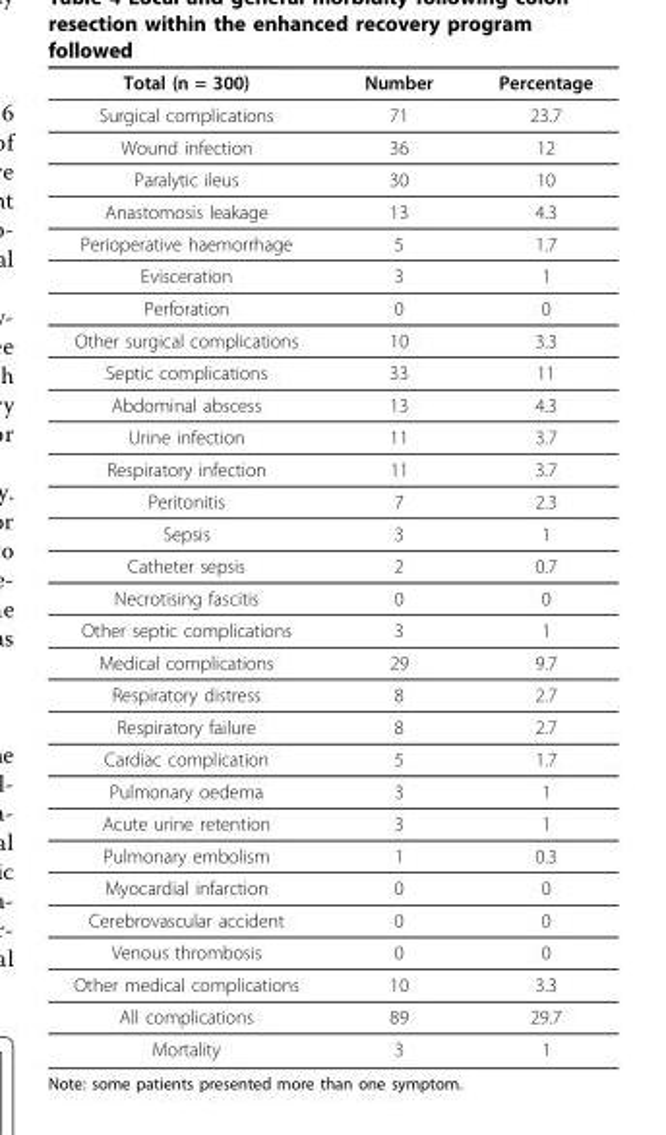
<table><thead><tr><td>Total (n = 300)</td><td>Number</td><td>Percentage</td></tr></thead><tbody><tr><td>Surgical complications</td><td>71</td><td>23.7</td></tr><tr><td>Wound infection</td><td>36</td><td>12</td></tr><tr><td>Paralytic ileus</td><td>30</td><td>10</td></tr><tr><td>Anastomosis leakage</td><td>13</td><td>4.3</td></tr><tr><td>Perioperative haemorrhage</td><td>5</td><td>1.7</td></tr><tr><td>Evisceration</td><td>3</td><td>1</td></tr><tr><td>Perforation</td><td>0</td><td>0</td></tr><tr><td>Other surgical complications</td><td>10</td><td>3.3</td></tr><tr><td>Septic complications</td><td>33</td><td>11</td></tr><tr><td>Abdominal abscess</td><td>13</td><td>4.3</td></tr><tr><td>Urine infection</td><td>11</td><td>3.7</td></tr><tr><td>Respiratory infection</td><td>11</td><td>3.7</td></tr><tr><td>Peritonitis</td><td>7</td><td>2.3</td></tr><tr><td>Sepsis</td><td>3</td><td>1</td></tr><tr><td>Catheter sepsis</td><td>2</td><td>0.7</td></tr><tr><td>Necrotising fascitis</td><td>0</td><td>0</td></tr><tr><td>Other septic complications</td><td>3</td><td>1</td></tr><tr><td>Medical complications</td><td>29</td><td>9.7</td></tr><tr><td>Respiratory distress</td><td>8</td><td>2.7</td></tr><tr><td>Respiratory failure</td><td>8</td><td>2.7</td></tr><tr><td>Cardiac complication</td><td>5</td><td>1.7</td></tr><tr><td>Pulmonary oedema</td><td>3</td><td>1</td></tr><tr><td>Acute urine retention</td><td>3</td><td>1</td></tr><tr><td>Pulmonary embolism</td><td>1</td><td>0.3</td></tr><tr><td>Myocardial infarction</td><td>0</td><td>0</td></tr><tr><td>Cerebrovascular accident</td><td>0</td><td>0</td></tr><tr><td>Venous thrombosis</td><td>0</td><td>0</td></tr><tr><td>Other medical complications</td><td>10</td><td>3.3</td></tr><tr><td>All complications</td><td>89</td><td>29.7</td></tr><tr><td>Mortality</td><td>3</td><td>1</td></tr></tbody></table>